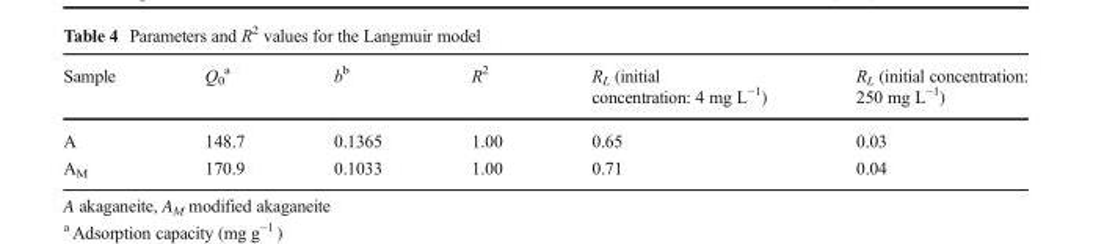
<table><thead><tr><td>Sample</td><td>Q<sub>0</sub> <sup>a</sup></td><td>b<sup>b</sup></td><td>R<sup>2</sup></td><td>R<sub>L</sub> (initial concentration: 4 mg L<sup>−1</sup>)</td><td>R<sub>L</sub> (initial concentration: 250 mg L<sup>−1</sup>)</td></tr></thead><tbody><tr><td>A</td><td>148.7</td><td>0.1365</td><td>1.00</td><td>0.65</td><td>0.03</td></tr><tr><td>A<sub>M</sub></td><td>170.9</td><td>0.1033</td><td>1.00</td><td>0.71</td><td>0.04</td></tr></tbody></table>